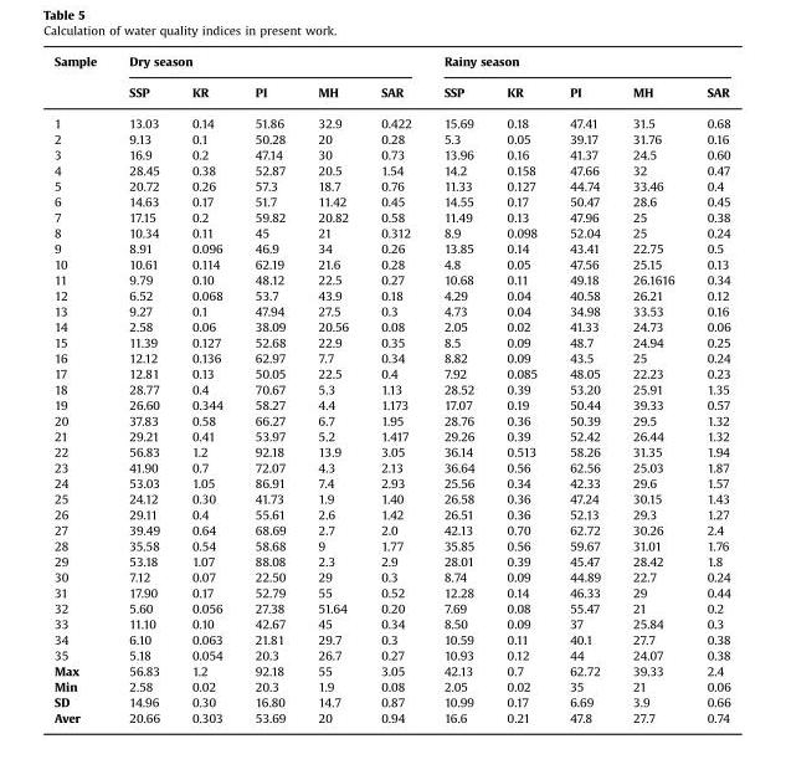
<table><thead><tr><td rowspan="2">Sample</td><td colspan="5">Dry season</td><td colspan="5">Rainy season</td></tr><tr><td>SSP</td><td>KR</td><td>PI</td><td>MH</td><td>SAR</td><td>SSP</td><td>KR</td><td>PI</td><td>MH</td><td>SAR</td></tr></thead><tbody><tr><td>1</td><td>13.03</td><td>0.14</td><td>51.86</td><td>32.9</td><td>0.422</td><td>15.69</td><td>0.18</td><td>47.41</td><td>31.5</td><td>0.68</td></tr><tr><td>2</td><td>9.13</td><td>0.1</td><td>50.28</td><td>20</td><td>0.28</td><td>5.3</td><td>0.05</td><td>39.17</td><td>31.76</td><td>0.16</td></tr><tr><td>3</td><td>16.9</td><td>0.2</td><td>47.14</td><td>30</td><td>0.73</td><td>13.96</td><td>0.16</td><td>41.37</td><td>24.5</td><td>0.60</td></tr><tr><td>4</td><td>28.45</td><td>0.38</td><td>52.87</td><td>20.5</td><td>1.54</td><td>14.2</td><td>0.158</td><td>47.66</td><td>32</td><td>0.47</td></tr><tr><td>5</td><td>20.72</td><td>0.26</td><td>57.3</td><td>18.7</td><td>0.76</td><td>11.33</td><td>0.127</td><td>44.74</td><td>33.46</td><td>0.4</td></tr><tr><td>6</td><td>14.63</td><td>0.17</td><td>51.7</td><td>11.42</td><td>0.45</td><td>14.55</td><td>0.17</td><td>50.47</td><td>28.6</td><td>0.45</td></tr><tr><td>7</td><td>17.15</td><td>0.2</td><td>59.82</td><td>20.82</td><td>0.58</td><td>11.49</td><td>0.13</td><td>47.96</td><td>25</td><td>0.38</td></tr><tr><td>8</td><td>10.34</td><td>0.11</td><td>45</td><td>21</td><td>0.312</td><td>8.9</td><td>0.098</td><td>52.04</td><td>25</td><td>0.24</td></tr><tr><td>9</td><td>8.91</td><td>0.096</td><td>46.9</td><td>34</td><td>0.26</td><td>13.85</td><td>0.14</td><td>43.41</td><td>22.75</td><td>0.5</td></tr><tr><td>10</td><td>10.61</td><td>0.114</td><td>62.19</td><td>21.6</td><td>0.28</td><td>4.8</td><td>0.05</td><td>47.56</td><td>25.15</td><td>0.13</td></tr><tr><td>11</td><td>9.79</td><td>0.10</td><td>48.12</td><td>22.5</td><td>0.27</td><td>10.68</td><td>0.11</td><td>49.18</td><td>26.1616</td><td>0.34</td></tr><tr><td>12</td><td>6.52</td><td>0.068</td><td>53.7</td><td>43.9</td><td>0.18</td><td>4.29</td><td>0.04</td><td>40.58</td><td>26.21</td><td>0.12</td></tr><tr><td>13</td><td>9.27</td><td>0.1</td><td>47.94</td><td>27.5</td><td>0.3</td><td>4.73</td><td>0.04</td><td>34.98</td><td>33.53</td><td>0.16</td></tr><tr><td>14</td><td>2.58</td><td>0.06</td><td>38.09</td><td>20.56</td><td>0.08</td><td>2.05</td><td>0.02</td><td>41.33</td><td>24.73</td><td>0.06</td></tr><tr><td>15</td><td>11.39</td><td>0.127</td><td>52.68</td><td>22.9</td><td>0.35</td><td>8.5</td><td>0.09</td><td>48.7</td><td>24.94</td><td>0.25</td></tr><tr><td>16</td><td>12.12</td><td>0.136</td><td>62.97</td><td>7.7</td><td>0.34</td><td>8.82</td><td>0.09</td><td>43.5</td><td>25</td><td>0.24</td></tr><tr><td>17</td><td>12.81</td><td>0.13</td><td>50.05</td><td>22.5</td><td>0.4</td><td>7.92</td><td>0.085</td><td>48.05</td><td>22.23</td><td>0.23</td></tr><tr><td>18</td><td>28.77</td><td>0.4</td><td>70.67</td><td>5.3</td><td>1.13</td><td>28.52</td><td>0.39</td><td>53.20</td><td>25.91</td><td>1.35</td></tr><tr><td>19</td><td>26.60</td><td>0.344</td><td>58.27</td><td>4.4</td><td>1.173</td><td>17.07</td><td>0.19</td><td>50.44</td><td>39.33</td><td>0.57</td></tr><tr><td>20</td><td>37.83</td><td>0.58</td><td>66.27</td><td>6.7</td><td>1.95</td><td>28.76</td><td>0.36</td><td>50.39</td><td>29.5</td><td>1.32</td></tr><tr><td>21</td><td>29.21</td><td>0.41</td><td>53.97</td><td>5.2</td><td>1.417</td><td>29.26</td><td>0.39</td><td>52.42</td><td>26.44</td><td>1.32</td></tr><tr><td>22</td><td>56.83</td><td>1.2</td><td>92.18</td><td>13.9</td><td>3.05</td><td>36.14</td><td>0.513</td><td>58.26</td><td>31.35</td><td>1.94</td></tr><tr><td>23</td><td>41.90</td><td>0.7</td><td>72.07</td><td>4.3</td><td>2.13</td><td>36.64</td><td>0.56</td><td>62.56</td><td>25.03</td><td>1.87</td></tr><tr><td>24</td><td>53.03</td><td>1.05</td><td>86.91</td><td>7.4</td><td>2.93</td><td>25.56</td><td>0.34</td><td>42.33</td><td>29.6</td><td>1.57</td></tr><tr><td>25</td><td>24.12</td><td>0.30</td><td>41.73</td><td>1.9</td><td>1.40</td><td>26.58</td><td>0.36</td><td>47.24</td><td>30.15</td><td>1.43</td></tr><tr><td>26</td><td>29.11</td><td>0.4</td><td>55.61</td><td>2.6</td><td>1.42</td><td>26.51</td><td>0.36</td><td>52.13</td><td>29.3</td><td>1.27</td></tr><tr><td>27</td><td>39.49</td><td>0.64</td><td>68.69</td><td>2.7</td><td>2.0</td><td>42.13</td><td>0.70</td><td>62.72</td><td>30.26</td><td>2.4</td></tr><tr><td>28</td><td>35.58</td><td>0.54</td><td>58.68</td><td>9</td><td>1.77</td><td>35.85</td><td>0.56</td><td>59.67</td><td>31.01</td><td>1.76</td></tr><tr><td>29</td><td>53.18</td><td>1.07</td><td>88.08</td><td>2.3</td><td>2.9</td><td>28.01</td><td>0.39</td><td>45.47</td><td>28.42</td><td>1.8</td></tr><tr><td>30</td><td>7.12</td><td>0.07</td><td>22.50</td><td>29</td><td>0.3</td><td>8.74</td><td>0.09</td><td>44.89</td><td>22.7</td><td>0.24</td></tr><tr><td>31</td><td>17.90</td><td>0.17</td><td>52.79</td><td>55</td><td>0.52</td><td>12.28</td><td>0.14</td><td>46.33</td><td>29</td><td>0.44</td></tr><tr><td>32</td><td>5.60</td><td>0.056</td><td>27.38</td><td>51.64</td><td>0.20</td><td>7.69</td><td>0.08</td><td>55.47</td><td>21</td><td>0.2</td></tr><tr><td>33</td><td>11.10</td><td>0.10</td><td>42.67</td><td>45</td><td>0.34</td><td>8.50</td><td>0.09</td><td>37</td><td>25.84</td><td>0.3</td></tr><tr><td>34</td><td>6.10</td><td>0.063</td><td>21.81</td><td>29.7</td><td>0.3</td><td>10.59</td><td>0.11</td><td>40.1</td><td>27.7</td><td>0.38</td></tr><tr><td>35</td><td>5.18</td><td>0.054</td><td>20.3</td><td>26.7</td><td>0.27</td><td>10.93</td><td>0.12</td><td>44</td><td>24.07</td><td>0.38</td></tr><tr><td>Max</td><td>56.83</td><td>1.2</td><td>92.18</td><td>55</td><td>3.05</td><td>42.13</td><td>0.7</td><td>62.72</td><td>39.33</td><td>2.4</td></tr><tr><td>Min</td><td>2.58</td><td>0.02</td><td>20.3</td><td>1.9</td><td>0.08</td><td>2.05</td><td>0.02</td><td>35</td><td>21</td><td>0.06</td></tr><tr><td>SD</td><td>14.96</td><td>0.30</td><td>16.80</td><td>14.7</td><td>0.87</td><td>10.99</td><td>0.17</td><td>6.69</td><td>3.9</td><td>0.66</td></tr><tr><td>Aver</td><td>20.66</td><td>0.303</td><td>53.69</td><td>20</td><td>0.94</td><td>16.6</td><td>0.21</td><td>47.8</td><td>27.7</td><td>0.74</td></tr></tbody></table>